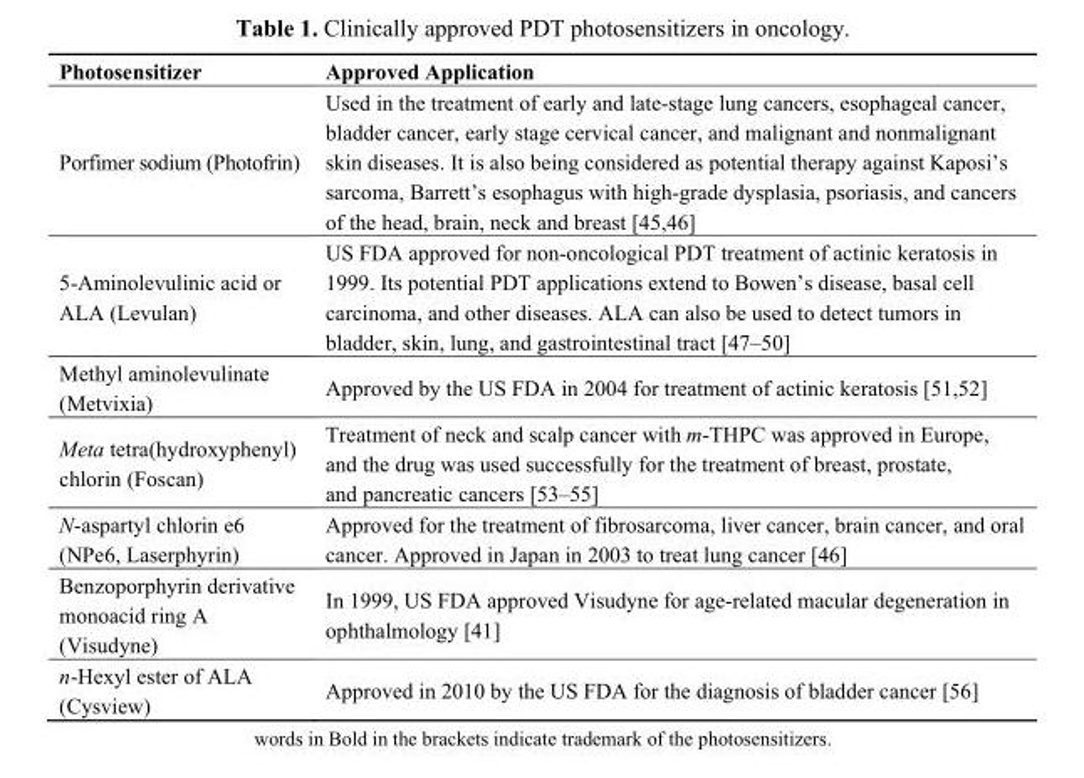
<table><thead><tr><td>Photosensitizer</td><td>Approved Application</td></tr></thead><tbody><tr><td>Porfimer sodium (Photofrin)</td><td>Used in the treatment of early and late-stage lung cancers, esophageal cancer, bladder cancer, early stage cervical cancer, and malignant and nonmalignant skin diseases. It is also being considered as potential therapy against Kaposi’s sarcoma, Barrett’s esophagus with high-grade dysplasia, psoriasis, and cancers of the head, brain, neck and breast [45,46]</td></tr><tr><td>5-Aminolevulinic acid or ALA (Levulan)</td><td>US FDA approved for non-oncological PDT treatment of actinic keratosis in 1999. Its potential PDT applications extend to Bowen’s disease, basal cell carcinoma, and other diseases. ALA can also be used to detect tumors in bladder, skin, lung, and gastrointestinal tract [47–50]</td></tr><tr><td>Methyl aminolevulinate (Metvixia)</td><td>Approved by the US FDA in 2004 for treatment of actinic keratosis [51,52]</td></tr><tr><td>Meta tetra(hydroxyphenyl) chlorin (Foscan)</td><td>Treatment of neck and scalp cancer with m-THPC was approved in Europe, and the drug was used successfully for the treatment of breast, prostate, and pancreatic cancers [53–55]</td></tr><tr><td>N-aspartyl chlorin e6 (NPe6, Laserphyrin)</td><td>Approved for the treatment of fibrosarcoma, liver cancer, brain cancer, and oral cancer. Approved in Japan in 2003 to treat lung cancer [46]</td></tr><tr><td>Benzoporphyrin derivative monoacid ring A (Visudyne)</td><td>In 1999, US FDA approved Visudyne for age-related macular degeneration in ophthalmology [41]</td></tr><tr><td>n-Hexyl ester of ALA (Cysview)</td><td>Approved in 2010 by the US FDA for the diagnosis of bladder cancer [56]</td></tr></tbody></table>